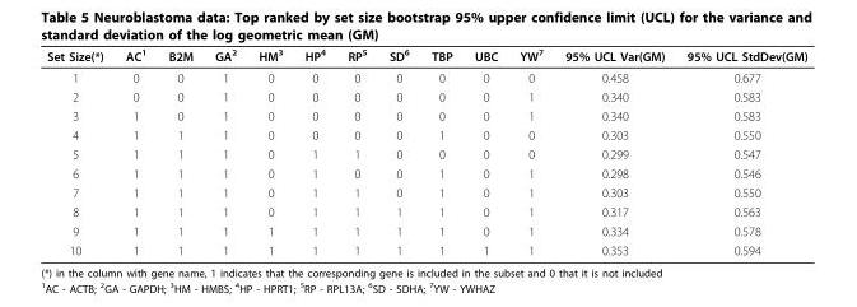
<table><thead><tr><td>Set Size(*)</td><td>AC<sup>1</sup></td><td>B2M</td><td>GA<sup>2</sup></td><td>HM<sup>3</sup></td><td>HP<sup>4</sup></td><td>RP<sup>5</sup></td><td>SD<sup>6</sup></td><td>TBP</td><td>UBC</td><td>YW<sup>7</sup></td><td>95% UCL Var(GM)</td><td>95% UCL StdDev(GM)</td></tr></thead><tbody><tr><td>1</td><td>0</td><td>0</td><td>1</td><td>0</td><td>0</td><td>0</td><td>0</td><td>0</td><td>0</td><td>0</td><td>0.458</td><td>0.677</td></tr><tr><td>2</td><td>0</td><td>0</td><td>1</td><td>0</td><td>0</td><td>0</td><td>0</td><td>0</td><td>0</td><td>1</td><td>0.340</td><td>0.583</td></tr><tr><td>3</td><td>1</td><td>0</td><td>1</td><td>0</td><td>0</td><td>0</td><td>0</td><td>0</td><td>0</td><td>1</td><td>0.340</td><td>0.583</td></tr><tr><td>4</td><td>1</td><td>1</td><td>1</td><td>0</td><td>0</td><td>0</td><td>0</td><td>1</td><td>0</td><td>0</td><td>0.303</td><td>0.550</td></tr><tr><td>5</td><td>1</td><td>1</td><td>1</td><td>0</td><td>1</td><td>1</td><td>0</td><td>0</td><td>0</td><td>0</td><td>0.299</td><td>0.547</td></tr><tr><td>6</td><td>1</td><td>1</td><td>1</td><td>0</td><td>1</td><td>0</td><td>0</td><td>1</td><td>0</td><td>1</td><td>0.298</td><td>0.546</td></tr><tr><td>7</td><td>1</td><td>1</td><td>1</td><td>0</td><td>1</td><td>1</td><td>0</td><td>1</td><td>0</td><td>1</td><td>0.303</td><td>0.550</td></tr><tr><td>8</td><td>1</td><td>1</td><td>1</td><td>0</td><td>1</td><td>1</td><td>1</td><td>1</td><td>0</td><td>1</td><td>0.317</td><td>0.563</td></tr><tr><td>9</td><td>1</td><td>1</td><td>1</td><td>1</td><td>1</td><td>1</td><td>1</td><td>1</td><td>0</td><td>1</td><td>0.334</td><td>0.578</td></tr><tr><td>10</td><td>1</td><td>1</td><td>1</td><td>1</td><td>1</td><td>1</td><td>1</td><td>1</td><td>1</td><td>1</td><td>0.353</td><td>0.594</td></tr></tbody></table>